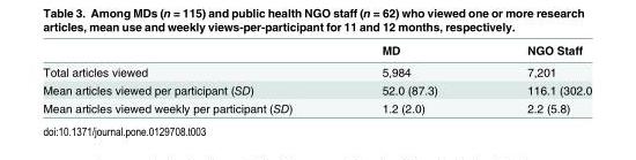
<table><thead><tr><td></td><td>MD</td><td>NGO Staff</td></tr></thead><tbody><tr><td>Total articles viewed</td><td>5,984</td><td>7,201</td></tr><tr><td>Mean articles viewed per participant (SD)</td><td>52.0 (87.3)</td><td>116.1 (302.0</td></tr><tr><td>Mean articles viewed weekly per participant (SD)</td><td>1.2 (2.0)</td><td>2.2 (5.8)</td></tr></tbody></table>